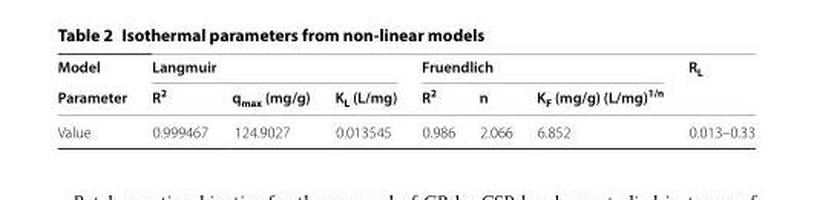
<table><thead><tr><td rowspan="2">Model Parameter</td><td colspan="3">Langmuir</td><td colspan="3">Fruendlich</td><td rowspan="2">R<sub>L</sub></td></tr><tr><td>R<sup>2</sup></td><td>q<sub>max</sub> (mg/g)</td><td>K<sub>L</sub> (L/mg)</td><td>R<sup>2</sup></td><td>n</td><td>K<sub>F</sub> (mg/g) (L/mg)<sup>1/n</sup></td></tr></thead><tbody><tr><td>Value</td><td>0.999467</td><td>124.9027</td><td>0.013545</td><td>0.986</td><td>2.066</td><td>6.852</td><td>0.013–0.33</td></tr></tbody></table>